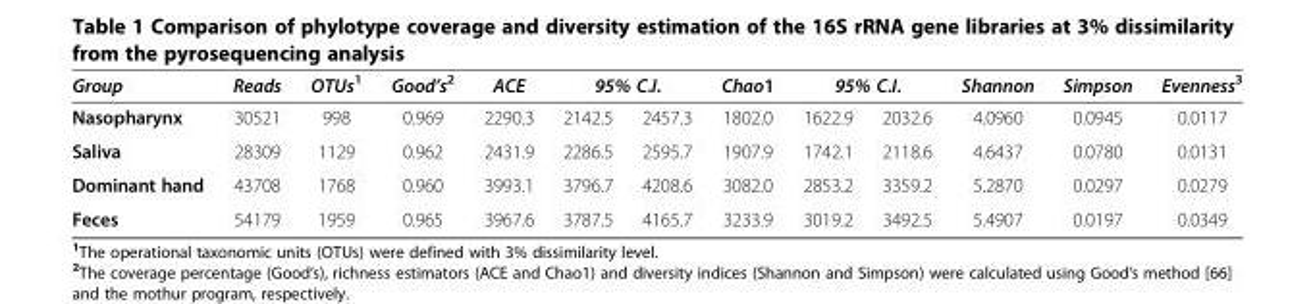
<table><thead><tr><td rowspan="2">Group Nasopharynx</td><td rowspan="2">Reads 30521</td><td rowspan="2">OTUs<sup>1</sup> 998</td><td rowspan="2">Good’s<sup>2</sup> 0.969</td><td rowspan="2">ACE 2290.3</td><td colspan="2">95% C.I.</td><td rowspan="2">Chao1 1802.0</td><td colspan="2">95% C.I.</td><td rowspan="2">Shannon 4.0960</td><td rowspan="2">Simpson 0.0945</td><td rowspan="2">Evenness<sup>3</sup> 0.0117</td></tr><tr><td>2142.5</td><td>2457.3</td><td>1622.9</td><td>2032.6</td></tr></thead><tbody><tr><td>Saliva</td><td>28309</td><td>1129</td><td>0.962</td><td>2431.9</td><td>2286.5</td><td>2595.7</td><td>1907.9</td><td>1742.1</td><td>2118.6</td><td>4.6437</td><td>0.0780</td><td>0.0131</td></tr><tr><td>Dominant hand</td><td>43708</td><td>1768</td><td>0.960</td><td>3993.1</td><td>3796.7</td><td>4208.6</td><td>3082.0</td><td>2853.2</td><td>3359.2</td><td>5.2870</td><td>0.0297</td><td>0.0279</td></tr><tr><td>Feces</td><td>54179</td><td>1959</td><td>0.965</td><td>3967.6</td><td>3787.5</td><td>4165.7</td><td>3233.9</td><td>3019.2</td><td>3492.5</td><td>5.4907</td><td>0.0197</td><td>0.0349</td></tr></tbody></table>